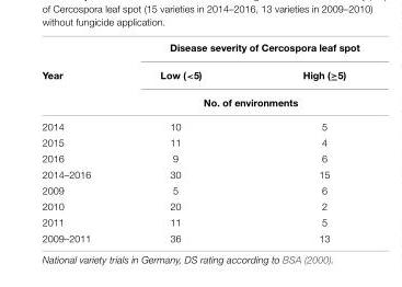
<table><thead><tr><td rowspan="3">Year</td><td colspan="2">Disease severity of Cercospora leaf spot</td></tr><tr><td>Low (&lt;5)</td><td>High (≥5)</td></tr><tr><td colspan="2">No. of environments</td></tr></thead><tbody><tr><td>2014</td><td>10</td><td>5</td></tr><tr><td>2015</td><td>11</td><td>4</td></tr><tr><td>2016</td><td>9</td><td>6</td></tr><tr><td>2014–2016</td><td>30</td><td>15</td></tr><tr><td>2009</td><td>5</td><td>6</td></tr><tr><td>2010</td><td>20</td><td>2</td></tr><tr><td>2011</td><td>11</td><td>5</td></tr><tr><td>2009–2011</td><td>36</td><td>13</td></tr></tbody></table>